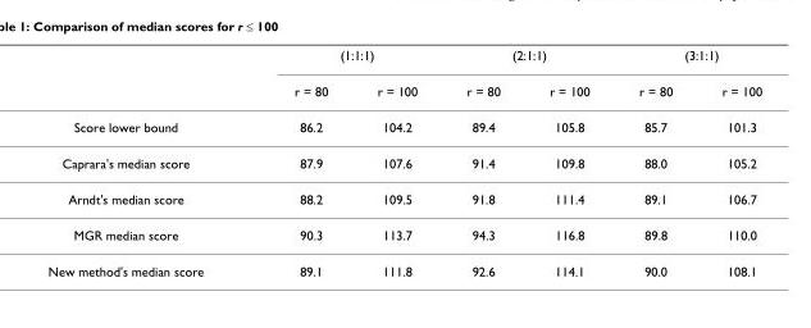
<table><thead><tr><td rowspan="2"></td><td colspan="2">(1:1:1)</td><td colspan="2">(2:1:1)</td><td colspan="2">(3:1:1)</td></tr><tr><td>r = 80</td><td>r = 100</td><td>r = 80</td><td>r = 100</td><td>r = 80</td><td>r = 100</td></tr></thead><tbody><tr><td>Score lower bound</td><td>86.2</td><td>104.2</td><td>89.4</td><td>105.8</td><td>85.7</td><td>101.3</td></tr><tr><td>Caprara&#x27;s median score</td><td>87.9</td><td>107.6</td><td>91.4</td><td>109.8</td><td>88.0</td><td>105.2</td></tr><tr><td>Arndt&#x27;s median score</td><td>88.2</td><td>109.5</td><td>91.8</td><td>111.4</td><td>89.1</td><td>106.7</td></tr><tr><td>MGR median score</td><td>90.3</td><td>113.7</td><td>94.3</td><td>116.8</td><td>89.8</td><td>110.0</td></tr><tr><td>New method&#x27;s median score</td><td>89.1</td><td>111.8</td><td>92.6</td><td>114.1</td><td>90.0</td><td>108.1</td></tr></tbody></table>